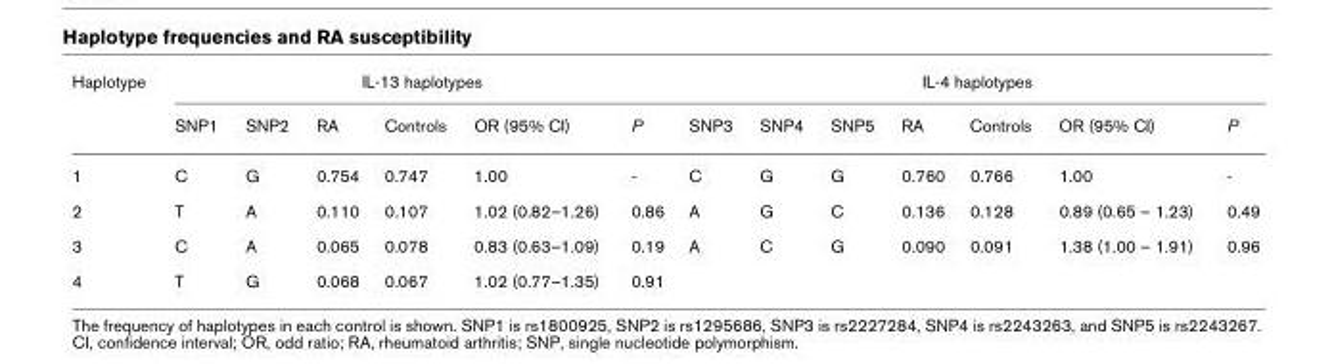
<table><thead><tr><td rowspan="2">Haplotype</td><td colspan="6">IL-13 haplotypes</td><td colspan="7">IL-4 haplotypes</td></tr><tr><td>SNP1</td><td>SNP2</td><td>RA</td><td>Controls</td><td>OR (95% CI)</td><td>P</td><td>SNP3</td><td>SNP4</td><td>SNP5</td><td>RA</td><td>Controls</td><td>OR (95% CI)</td><td>P</td></tr></thead><tbody><tr><td>1</td><td>C</td><td>G</td><td>0.754</td><td>0.747</td><td>1.00</td><td>-</td><td>C</td><td>G</td><td>G</td><td>0.760</td><td>0.766</td><td>1.00</td><td>-</td></tr><tr><td>2</td><td>T</td><td>A</td><td>0.110</td><td>0.107</td><td>1.02 (0.82–1.26)</td><td>0.86</td><td>A</td><td>G</td><td>C</td><td>0.136</td><td>0.128</td><td>0.89 (0.65 – 1.23)</td><td>0.49</td></tr><tr><td>3</td><td>C</td><td>A</td><td>0.065</td><td>0.078</td><td>0.83 (0.63–1.09)</td><td>0.19</td><td>A</td><td>C</td><td>G</td><td>0.090</td><td>0.091</td><td>1.38 (1.00 – 1.91)</td><td>0.96</td></tr><tr><td>4</td><td>T</td><td>G</td><td>0.068</td><td>0.067</td><td>1.02 (0.77–1.35)</td><td>0.91</td><td></td><td></td><td></td><td></td><td></td><td></td><td></td></tr></tbody></table>